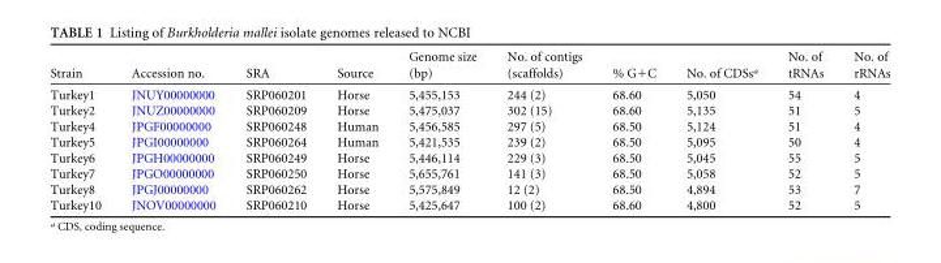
<table><thead><tr><td>Strain</td><td>Accession no.</td><td>SRA</td><td>Source</td><td>Genome size (bp)</td><td>No. of contigs (scaffolds)</td><td>% G+C</td><td>No. of CDSs<sup>a</sup></td><td>No. of tRNAs</td><td>No. of rRNAs</td></tr></thead><tbody><tr><td>Turkey1</td><td>JNUY00000000</td><td>SRP060201</td><td>Horse</td><td>5,455,153</td><td>244 (2)</td><td>68.60</td><td>5,050</td><td>54</td><td>4</td></tr><tr><td>Turkey2</td><td>JNUZ00000000</td><td>SRP060209</td><td>Horse</td><td>5,475,037</td><td>302 (15)</td><td>68.60</td><td>5,135</td><td>51</td><td>5</td></tr><tr><td>Turkey4</td><td>JPGF00000000</td><td>SRP060248</td><td>Human</td><td>5,456,585</td><td>297 (5)</td><td>68.50</td><td>5,124</td><td>51</td><td>4</td></tr><tr><td>Turkey5</td><td>JPGI00000000</td><td>SRP060264</td><td>Human</td><td>5,421,535</td><td>239 (2)</td><td>68.50</td><td>5,095</td><td>50</td><td>4</td></tr><tr><td>Turkey6</td><td>JPGH00000000</td><td>SRP060249</td><td>Horse</td><td>5,446,114</td><td>229 (3)</td><td>68.50</td><td>5,045</td><td>55</td><td>5</td></tr><tr><td>Turkey7</td><td>JPGO00000000</td><td>SRP060250</td><td>Horse</td><td>5,655,761</td><td>141 (3)</td><td>68.50</td><td>5,058</td><td>52</td><td>5</td></tr><tr><td>Turkey8</td><td>JPGJ00000000</td><td>SRP060262</td><td>Horse</td><td>5,575,849</td><td>12 (2)</td><td>68.50</td><td>4,894</td><td>53</td><td>7</td></tr><tr><td>Turkey10</td><td>JNOV00000000</td><td>SRP060210</td><td>Horse</td><td>5,425,647</td><td>100 (2)</td><td>68.60</td><td>4,800</td><td>52</td><td>5</td></tr></tbody></table>